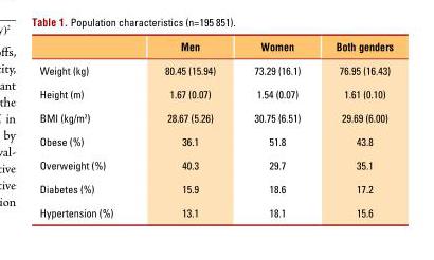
<table><thead><tr><td></td><td>Men</td><td>Women</td><td>Both genders</td></tr></thead><tbody><tr><td>Weight (kg)</td><td>80.45 (15.94)</td><td>73.29 (16.1)</td><td>76.95 (16.43)</td></tr><tr><td>Height (m)</td><td>1.67 (0.07)</td><td>1.54 (0.07)</td><td>1.61 (0.10)</td></tr><tr><td>BMI (kg/m<sup>2</sup>)</td><td>28.67 (5.26)</td><td>30.75 (6.51)</td><td>29.69 (6.00)</td></tr><tr><td>Obese (%)</td><td>36.1</td><td>51.8</td><td>43.8</td></tr><tr><td>Overweight (%)</td><td>40.3</td><td>29.7</td><td>35.1</td></tr><tr><td>Diabetes (%)</td><td>15.9</td><td>18.6</td><td>17.2</td></tr><tr><td>Hypertension (%)</td><td>13.1</td><td>18.1</td><td>15.6</td></tr></tbody></table>